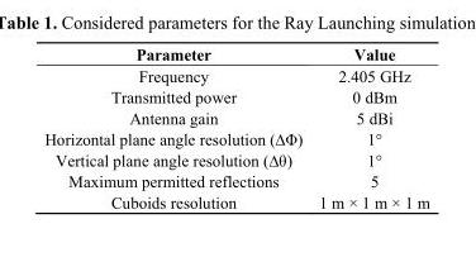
<table><thead><tr><td>Parameter</td><td>Value</td></tr></thead><tbody><tr><td>Frequency</td><td>2.405 GHz</td></tr><tr><td>Transmitted power</td><td>0 dBm</td></tr><tr><td>Antenna gain</td><td>5 dBi</td></tr><tr><td>Horizontal plane angle resolution (∆Φ)</td><td>1°</td></tr><tr><td>Vertical plane angle resolution (∆θ)</td><td>1°</td></tr><tr><td>Maximum permitted reflections</td><td>5</td></tr><tr><td>Cuboids resolution</td><td>1 m × 1 m × 1 m</td></tr></tbody></table>